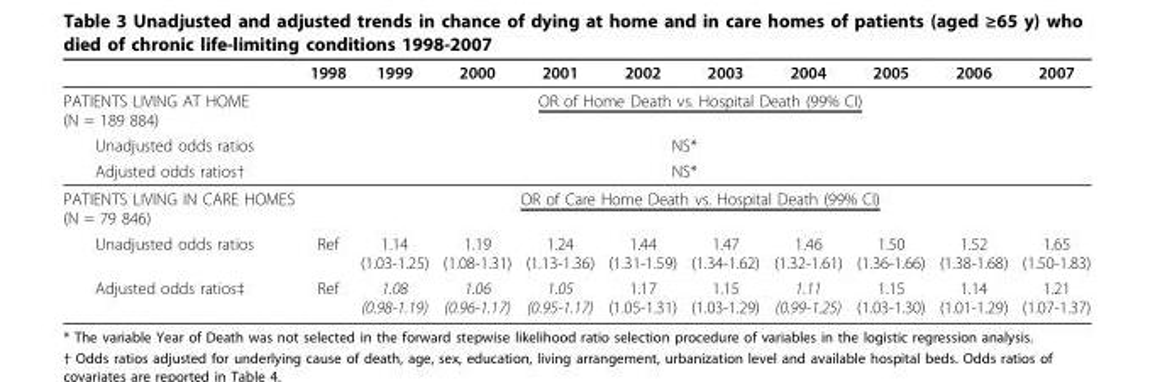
<table><thead><tr><td></td><td>1998</td><td>1999</td><td>2000</td><td>2001</td><td>2002</td><td>2003</td><td>2004</td><td>2005</td><td>2006</td><td>2007</td></tr></thead><tbody><tr><td>PATIENTS LIVING AT HOME (N = 189 884)</td><td colspan="10">OR of Home Death vs. Hospital Death (99% CI)</td></tr><tr><td>Unadjusted odds ratios</td><td></td><td></td><td></td><td></td><td colspan="2">NS*</td><td></td><td></td><td></td><td></td></tr><tr><td>Adjusted odds ratios†</td><td></td><td></td><td></td><td></td><td colspan="2">NS*</td><td></td><td></td><td></td><td></td></tr><tr><td>PATIENTS LIVING IN CARE HOMES (N = 79 846)</td><td colspan="10">OR of Care Home Death vs. Hospital Death (99% CI)</td></tr><tr><td>Unadjusted odds ratios</td><td>Ref</td><td>1.14 (1.03-1.25)</td><td>1.19 (1.08-1.31)</td><td>1.24 (1.13-1.36)</td><td>1.44 (1.31-1.59)</td><td>1.47 (1.34-1.62)</td><td>1.46 (1.32-1.61)</td><td>1.50 (1.36-1.66)</td><td>1.52 (1.38-1.68)</td><td>1.65 (1.50-1.83)</td></tr><tr><td>Adjusted odds ratios‡</td><td>Ref</td><td>1.08 (0.98-1.19)</td><td>1.06 (0.96-1.17)</td><td>1.05 (0.95-1.17)</td><td>1.17 (1.05-1.31)</td><td>1.15 (1.03-1.29)</td><td>1.11 (0.99-1.25)</td><td>1.15 (1.03-1.30)</td><td>1.14 (1.01-1.29)</td><td>1.21 (1.07-1.37)</td></tr></tbody></table>